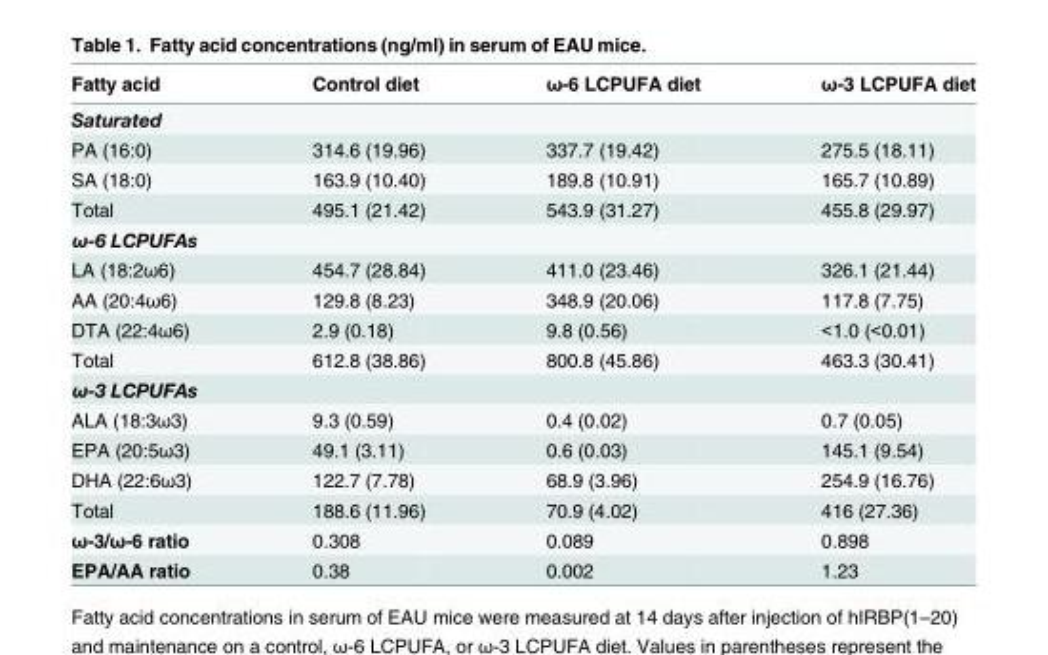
<table><thead><tr><td>Fatty acid</td><td>Control diet</td><td>ω-6 LCPUFA diet</td><td>ω-3 LCPUFA diet</td></tr></thead><tbody><tr><td colspan="4">Saturated</td></tr><tr><td>PA (16:0)</td><td>314.6 (19.96)</td><td>337.7 (19.42)</td><td>275.5 (18.11)</td></tr><tr><td>SA (18:0)</td><td>163.9 (10.40)</td><td>189.8 (10.91)</td><td>165.7 (10.89)</td></tr><tr><td>Total</td><td>495.1 (21.42)</td><td>543.9 (31.27)</td><td>455.8 (29.97)</td></tr><tr><td colspan="4">ω-6 LCPUFAs</td></tr><tr><td>LA (18:2ω6)</td><td>454.7 (28.84)</td><td>411.0 (23.46)</td><td>326.1 (21.44)</td></tr><tr><td>AA (20:4ω6)</td><td>129.8 (8.23)</td><td>348.9 (20.06)</td><td>117.8 (7.75)</td></tr><tr><td>DTA (22:4ω6)</td><td>2.9 (0.18)</td><td>9.8 (0.56)</td><td>&lt;1.0 (&lt;0.01)</td></tr><tr><td>Total</td><td>612.8 (38.86)</td><td>800.8 (45.86)</td><td>463.3 (30.41)</td></tr><tr><td colspan="4">ω-3 LCPUFAs</td></tr><tr><td>ALA (18:3ω3)</td><td>9.3 (0.59)</td><td>0.4 (0.02)</td><td>0.7 (0.05)</td></tr><tr><td>EPA (20:5ω3)</td><td>49.1 (3.11)</td><td>0.6 (0.03)</td><td>145.1 (9.54)</td></tr><tr><td>DHA (22:6ω3)</td><td>122.7 (7.78)</td><td>68.9 (3.96)</td><td>254.9 (16.76)</td></tr><tr><td>Total</td><td>188.6 (11.96)</td><td>70.9 (4.02)</td><td>416 (27.36)</td></tr><tr><td>ω-3/ω-6 ratio</td><td>0.308</td><td>0.089</td><td>0.898</td></tr><tr><td>EPA/AA ratio</td><td>0.38</td><td>0.002</td><td>1.23</td></tr></tbody></table>